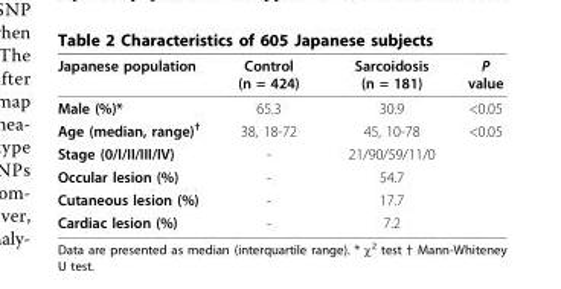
<table><thead><tr><td>Japanese population</td><td>Control (n = 424)</td><td>Sarcoidosis (n = 181)</td><td>P value</td></tr></thead><tbody><tr><td>Male (%)*</td><td>65.3</td><td>30.9</td><td>&lt;0.05</td></tr><tr><td>Age (median, range)<sup>†</sup></td><td>38, 18-72</td><td>45, 10-78</td><td>&lt;0.05</td></tr><tr><td>Stage (0/I/II/III/IV)</td><td>-</td><td>21/90/59/11/0</td><td></td></tr><tr><td>Occular lesion (%)</td><td>-</td><td>54.7</td><td></td></tr><tr><td>Cutaneous lesion (%)</td><td>-</td><td>17.7</td><td></td></tr><tr><td>Cardiac lesion (%)</td><td>-</td><td>7.2</td><td></td></tr></tbody></table>